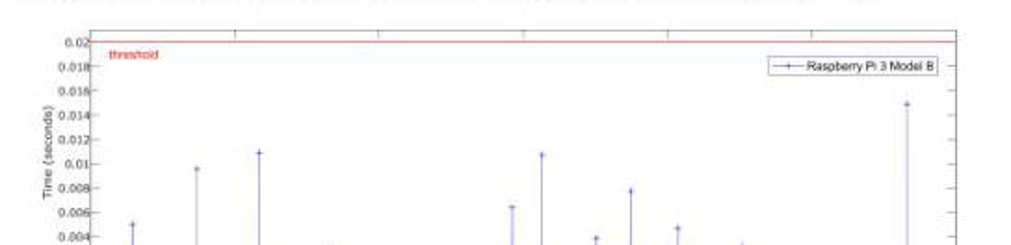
<table><thead><tr><td rowspan="2"></td><td colspan="3">Processing Time</td></tr><tr><td>Maximum (ms)</td><td>Mean (ms)</td><td>Mean Deviation (ms)</td></tr></thead><tbody><tr><td>Raspberry Pi 3 Model B</td><td>14.88</td><td>14.58 × 10<sup>−3</sup></td><td>5.8 × 10<sup>−6</sup></td></tr><tr><td>Intel Edison</td><td>9.54</td><td>15.09 × 10<sup>−3</sup></td><td>5.9 × 10<sup>−6</sup></td></tr></tbody></table>